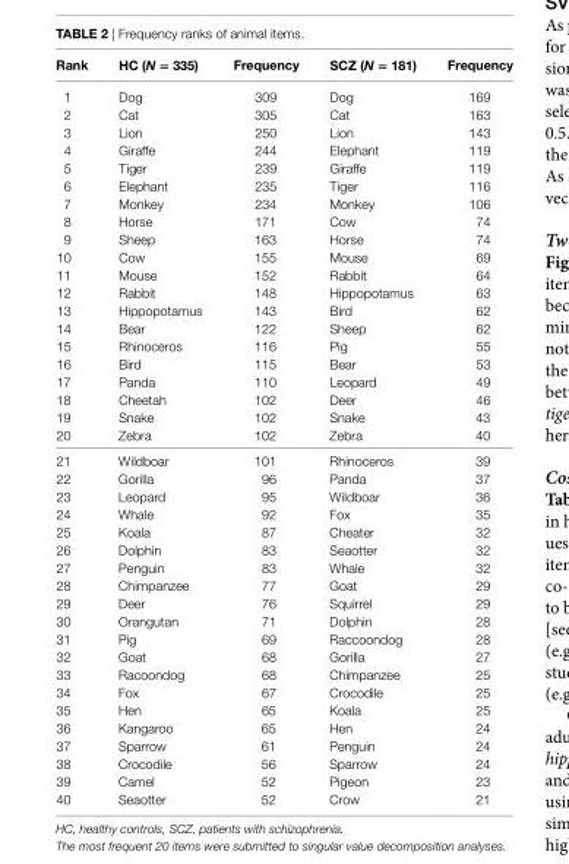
<table><thead><tr><td>rank</td><td>hc (N = 335)</td><td>Frequency</td><td>scZ (N = 181)</td><td>Frequency</td></tr></thead><tbody><tr><td>1</td><td>Dog</td><td>309</td><td>Dog</td><td>169</td></tr><tr><td>2</td><td>Cat</td><td>305</td><td>Cat</td><td>163</td></tr><tr><td>3</td><td>Lion</td><td>250</td><td>Lion</td><td>143</td></tr><tr><td>4</td><td>Giraffe</td><td>244</td><td>Elephant</td><td>119</td></tr><tr><td>5</td><td>Tiger</td><td>239</td><td>Giraffe</td><td>119</td></tr><tr><td>6</td><td>Elephant</td><td>235</td><td>Tiger</td><td>116</td></tr><tr><td>7</td><td>Monkey</td><td>234</td><td>Monkey</td><td>106</td></tr><tr><td>8</td><td>Horse</td><td>171</td><td>Cow</td><td>74</td></tr><tr><td>9</td><td>Sheep</td><td>163</td><td>Horse</td><td>74</td></tr><tr><td>10</td><td>Cow</td><td>155</td><td>Mouse</td><td>69</td></tr><tr><td>11</td><td>Mouse</td><td>152</td><td>Rabbit</td><td>64</td></tr><tr><td>12</td><td>Rabbit</td><td>148</td><td>Hippopotamus</td><td>63</td></tr><tr><td>13</td><td>Hippopotamus</td><td>143</td><td>Bird</td><td>62</td></tr><tr><td>14</td><td>Bear</td><td>122</td><td>Sheep</td><td>62</td></tr><tr><td>15</td><td>Rhinoceros</td><td>116</td><td>Pig</td><td>55</td></tr><tr><td>16</td><td>Bird</td><td>115</td><td>Bear</td><td>53</td></tr><tr><td>17</td><td>Panda</td><td>110</td><td>Leopard</td><td>49</td></tr><tr><td>18</td><td>Cheetah</td><td>102</td><td>Deer</td><td>46</td></tr><tr><td>19</td><td>Snake</td><td>102</td><td>Snake</td><td>43</td></tr><tr><td>20</td><td>Zebra</td><td>102</td><td>Zebra</td><td>40</td></tr><tr><td>21</td><td>Wildboar</td><td>101</td><td>Rhinoceros</td><td>39</td></tr><tr><td>22</td><td>Gorilla</td><td>96</td><td>Panda</td><td>37</td></tr><tr><td>23</td><td>Leopard</td><td>95</td><td>Wildboar</td><td>36</td></tr><tr><td>24</td><td>Whale</td><td>92</td><td>Fox</td><td>35</td></tr><tr><td>25</td><td>Koala</td><td>87</td><td>Cheater</td><td>32</td></tr><tr><td>26</td><td>Dolphin</td><td>83</td><td>Seaotter</td><td>32</td></tr><tr><td>27</td><td>Penguin</td><td>83</td><td>Whale</td><td>32</td></tr><tr><td>28</td><td>Chimpanzee</td><td>77</td><td>Goat</td><td>29</td></tr><tr><td>29</td><td>Deer</td><td>76</td><td>Squirrel</td><td>29</td></tr><tr><td>30</td><td>Orangutan</td><td>71</td><td>Dolphin</td><td>28</td></tr><tr><td>31</td><td>Pig</td><td>69</td><td>Raccoondog</td><td>28</td></tr><tr><td>32</td><td>Goat</td><td>68</td><td>Gorilla</td><td>27</td></tr><tr><td>33</td><td>Racoondog</td><td>68</td><td>Chimpanzee</td><td>25</td></tr><tr><td>34</td><td>Fox</td><td>67</td><td>Crocodile</td><td>25</td></tr><tr><td>35</td><td>Hen</td><td>65</td><td>Koala</td><td>25</td></tr><tr><td>36</td><td>Kangaroo</td><td>65</td><td>Hen</td><td>24</td></tr><tr><td>37</td><td>Sparrow</td><td>61</td><td>Penguin</td><td>24</td></tr><tr><td>38</td><td>Crocodile</td><td>56</td><td>Sparrow</td><td>24</td></tr><tr><td>39</td><td>Camel</td><td>52</td><td>Pigeon</td><td>23</td></tr><tr><td>40</td><td>Seaotter</td><td>52</td><td>Crow</td><td>21</td></tr></tbody></table>